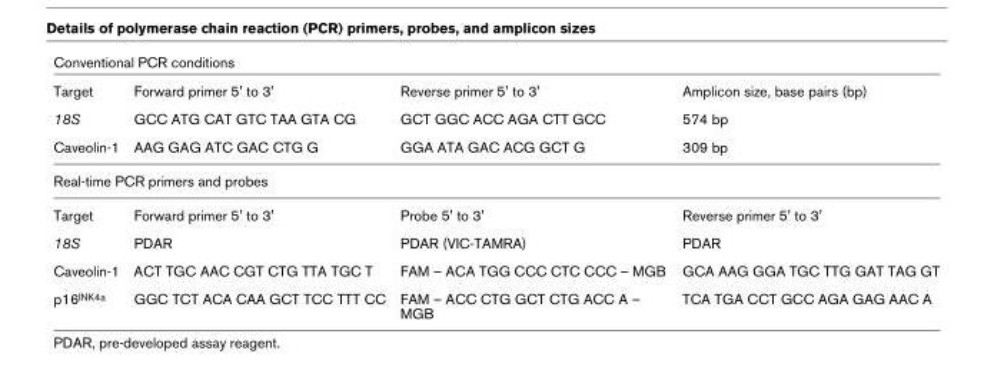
<table><thead><tr><td colspan="4">Conventional PCR conditions</td></tr><tr><td>Target</td><td>Forward primer 5&#x27; to 3&#x27;</td><td>Reverse primer 5&#x27; to 3&#x27;</td><td>Amplicon size, base pairs (bp)</td></tr></thead><tbody><tr><td>18S</td><td>GCC ATG CAT GTC TAA GTA CG</td><td>GCT GGC ACC AGA CTT GCC</td><td>574 bp</td></tr><tr><td>Caveolin-1</td><td>AAG GAG ATC GAC CTG G</td><td>GGA ATA GAC ACG GCT G</td><td>309 bp</td></tr><tr><td colspan="4">Real-time PCR primers and probes</td></tr><tr><td>Target</td><td>Forward primer 5&#x27; to 3&#x27;</td><td>Probe 5&#x27; to 3&#x27;</td><td>Reverse primer 5&#x27; to 3&#x27;</td></tr><tr><td>18S</td><td>PDAR</td><td>PDAR (VIC-TAMRA)</td><td>PDAR</td></tr><tr><td>Caveolin-1</td><td>ACT TGC AAC CGT CTG TTA TGC T</td><td>FAM – ACA TGG CCC CTC CCC – MGB</td><td>GCA AAG GGA TGC TTG GAT TAG GT</td></tr><tr><td>p16<sup>INK4a</sup></td><td>GGC TCT ACA CAA GCT TCC TTT CC</td><td>FAM – ACC CTG GCT CTG ACC A – MGB</td><td>TCA TGA CCT GCC AGA GAG AAC A</td></tr></tbody></table>